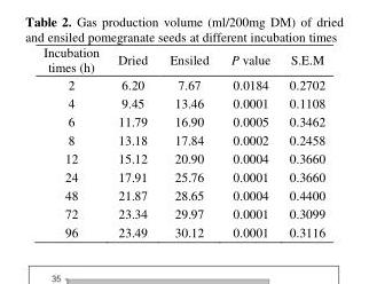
<table><thead><tr><td>Incubation times (h)</td><td>Dried</td><td>Ensiled</td><td>P value</td><td>S.E.M</td></tr></thead><tbody><tr><td>2</td><td>6.20</td><td>7.67</td><td>0.0184</td><td>0.2702</td></tr><tr><td>4</td><td>9.45</td><td>13.46</td><td>0.0001</td><td>0.1108</td></tr><tr><td>6</td><td>11.79</td><td>16.90</td><td>0.0005</td><td>0.3462</td></tr><tr><td>8</td><td>13.18</td><td>17.84</td><td>0.0002</td><td>0.2458</td></tr><tr><td>12</td><td>15.12</td><td>20.90</td><td>0.0004</td><td>0.3660</td></tr><tr><td>24</td><td>17.91</td><td>25.76</td><td>0.0001</td><td>0.3660</td></tr><tr><td>48</td><td>21.87</td><td>28.65</td><td>0.0004</td><td>0.4400</td></tr><tr><td>72</td><td>23.34</td><td>29.97</td><td>0.0001</td><td>0.3099</td></tr><tr><td>96</td><td>23.49</td><td>30.12</td><td>0.0001</td><td>0.3116</td></tr></tbody></table>